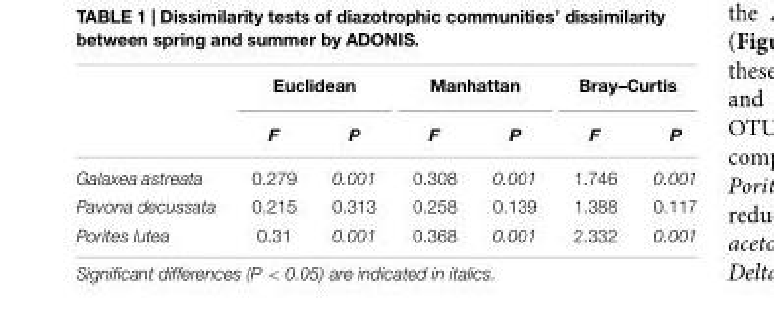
<table><thead><tr><td rowspan="2"></td><td colspan="2">Euclidean</td><td colspan="2">Manhattan</td><td colspan="2">Bray–Curtis</td></tr><tr><td>F</td><td>P</td><td>F</td><td>P</td><td>F</td><td>P</td></tr></thead><tbody><tr><td>Galaxea astreata</td><td>0.279</td><td>0.001</td><td>0.308</td><td>0.001</td><td>1.746</td><td>0.001</td></tr><tr><td>Pavona decussata</td><td>0.215</td><td>0.313</td><td>0.258</td><td>0.139</td><td>1.388</td><td>0.117</td></tr><tr><td>Porites lutea</td><td>0.31</td><td>0.001</td><td>0.368</td><td>0.001</td><td>2.332</td><td>0.001</td></tr></tbody></table>